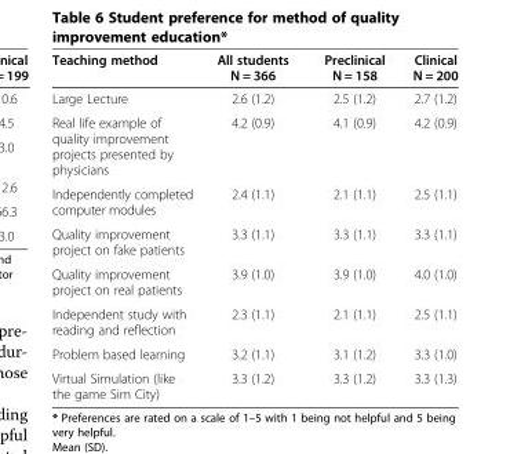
<table><thead><tr><td>Teaching method</td><td>All students N = 366</td><td>Preclinical N = 158</td><td>Clinical N = 200</td></tr></thead><tbody><tr><td>Large Lecture</td><td>2.6 (1.2)</td><td>2.5 (1.2)</td><td>2.7 (1.2)</td></tr><tr><td>Real life example of quality improvement projects presented by physicians</td><td>4.2 (0.9)</td><td>4.1 (0.9)</td><td>4.2 (0.9)</td></tr><tr><td>Independently completed computer modules</td><td>2.4 (1.1)</td><td>2.1 (1.1)</td><td>2.5 (1.1)</td></tr><tr><td>Quality improvement project on fake patients</td><td>3.3 (1.1)</td><td>3.3 (1.1)</td><td>3.3 (1.1)</td></tr><tr><td>Quality improvement project on real patients</td><td>3.9 (1.0)</td><td>3.9 (1.0)</td><td>4.0 (1.0)</td></tr><tr><td>Independent study with reading and reflection</td><td>2.3 (1.1)</td><td>2.1 (1.1)</td><td>2.5 (1.1)</td></tr><tr><td>Problem based learning</td><td>3.2 (1.1)</td><td>3.1 (1.2)</td><td>3.3 (1.0)</td></tr><tr><td>Virtual Simulation (like the game Sim City)</td><td>3.3 (1.2)</td><td>3.3 (1.2)</td><td>3.3 (1.3)</td></tr></tbody></table>